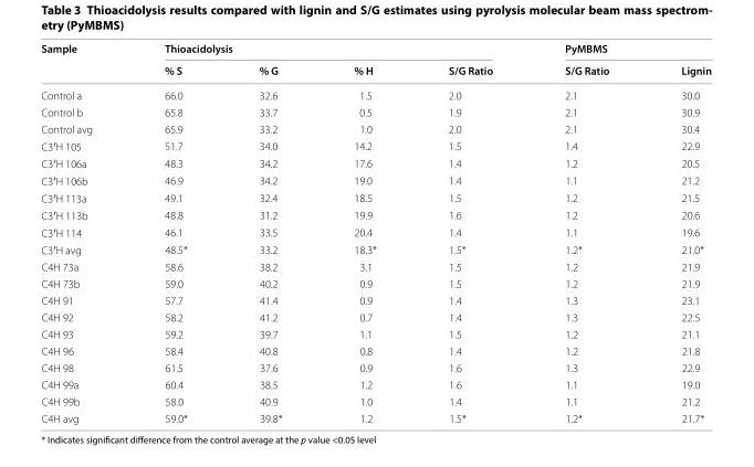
<table><thead><tr><td rowspan="2">Sample</td><td colspan="4">Thioacidolysis</td><td colspan="2">PyMBMS</td></tr><tr><td>% S</td><td>% G</td><td>% H</td><td>S/G Ratio</td><td>S/G Ratio</td><td>Lignin</td></tr></thead><tbody><tr><td>Control a</td><td>66.0</td><td>32.6</td><td>1.5</td><td>2.0</td><td>2.1</td><td>30.0</td></tr><tr><td>Control b</td><td>65.8</td><td>33.7</td><td>0.5</td><td>1.9</td><td>2.1</td><td>30.9</td></tr><tr><td>Control avg</td><td>65.9</td><td>33.2</td><td>1.0</td><td>2.0</td><td>2.1</td><td>30.4</td></tr><tr><td>C3′H 105</td><td>51.7</td><td>34.0</td><td>14.2</td><td>1.5</td><td>1.4</td><td>22.9</td></tr><tr><td>C3′H 106a</td><td>48.3</td><td>34.2</td><td>17.6</td><td>1.4</td><td>1.2</td><td>20.5</td></tr><tr><td>C3′H 106b</td><td>46.9</td><td>34.2</td><td>19.0</td><td>1.4</td><td>1.1</td><td>21.2</td></tr><tr><td>C3′H 113a</td><td>49.1</td><td>32.4</td><td>18.5</td><td>1.5</td><td>1.2</td><td>21.5</td></tr><tr><td>C3′H 113b</td><td>48.8</td><td>31.2</td><td>19.9</td><td>1.6</td><td>1.2</td><td>20.6</td></tr><tr><td>C3′H 114</td><td>46.1</td><td>33.5</td><td>20.4</td><td>1.4</td><td>1.1</td><td>19.6</td></tr><tr><td>C3′H avg</td><td>48.5*</td><td>33.2</td><td>18.3*</td><td>1.5*</td><td>1.2*</td><td>21.0*</td></tr><tr><td>C4H 73a</td><td>58.6</td><td>38.2</td><td>3.1</td><td>1.5</td><td>1.2</td><td>21.9</td></tr><tr><td>C4H 73b</td><td>59.0</td><td>40.2</td><td>0.9</td><td>1.5</td><td>1.2</td><td>21.9</td></tr><tr><td>C4H 91</td><td>57.7</td><td>41.4</td><td>0.9</td><td>1.4</td><td>1.3</td><td>23.1</td></tr><tr><td>C4H 92</td><td>58.2</td><td>41.2</td><td>0.7</td><td>1.4</td><td>1.3</td><td>22.5</td></tr><tr><td>C4H 93</td><td>59.2</td><td>39.7</td><td>1.1</td><td>1.5</td><td>1.2</td><td>21.1</td></tr><tr><td>C4H 96</td><td>58.4</td><td>40.8</td><td>0.8</td><td>1.4</td><td>1.2</td><td>21.8</td></tr><tr><td>C4H 98</td><td>61.5</td><td>37.6</td><td>0.9</td><td>1.6</td><td>1.3</td><td>22.9</td></tr><tr><td>C4H 99a</td><td>60.4</td><td>38.5</td><td>1.2</td><td>1.6</td><td>1.1</td><td>19.0</td></tr><tr><td>C4H 99b</td><td>58.0</td><td>40.9</td><td>1.0</td><td>1.4</td><td>1.1</td><td>21.2</td></tr><tr><td>C4H avg</td><td>59.0*</td><td>39.8*</td><td>1.2</td><td>1.5*</td><td>1.2*</td><td>21.7*</td></tr></tbody></table>